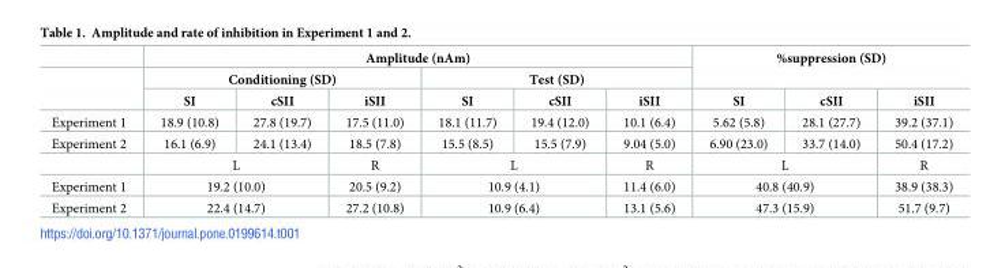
<table><thead><tr><td rowspan="3"></td><td colspan="6">Amplitude (nAm)</td><td rowspan="2" colspan="3">%suppression (SD)</td></tr><tr><td colspan="3">Conditioning (SD)</td><td colspan="3">Test (SD)</td></tr><tr><td>SI</td><td>cSII</td><td>iSII</td><td>SI</td><td>cSII</td><td>iSII</td><td>SI</td><td>cSII</td><td>iSII</td></tr></thead><tbody><tr><td>Experiment 1</td><td>18.9 (10.8)</td><td>27.8 (19.7)</td><td>17.5 (11.0)</td><td>18.1 (11.7)</td><td>19.4 (12.0)</td><td>10.1 (6.4)</td><td>5.62 (5.8)</td><td>28.1 (27.7)</td><td>39.2 (37.1)</td></tr><tr><td rowspan="2">Experiment 2</td><td>16.1 (6.9)</td><td>24.1 (13.4)</td><td>18.5 (7.8)</td><td>15.5 (8.5)</td><td>15.5 (7.9)</td><td>9.04 (5.0)</td><td>6.90 (23.0)</td><td>33.7 (14.0)</td><td>50.4 (17.2)</td></tr><tr><td colspan="2">L</td><td>R</td><td colspan="2">L</td><td>R</td><td colspan="2">L</td><td>R</td></tr><tr><td>Experiment 1</td><td colspan="2">19.2 (10.0)</td><td>20.5 (9.2)</td><td colspan="2">10.9 (4.1)</td><td>11.4 (6.0)</td><td colspan="2">40.8 (40.9)</td><td>38.9 (38.3)</td></tr><tr><td>Experiment 2</td><td colspan="2">22.4 (14.7)</td><td>27.2 (10.8)</td><td colspan="2">10.9 (6.4)</td><td>13.1 (5.6)</td><td colspan="2">47.3 (15.9)</td><td>51.7 (9.7)</td></tr></tbody></table>